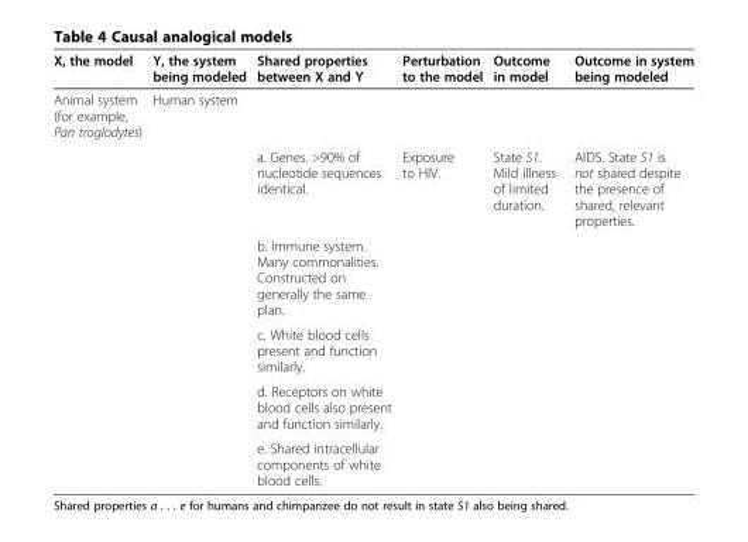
<table><thead><tr><td>X, the model</td><td>Y, the system being modeled</td><td>Shared properties between X and Y</td><td>Perturbation to the model</td><td>Outcome in model</td><td>Outcome in system being modeled</td></tr></thead><tbody><tr><td rowspan="6">Animal system (for example, Pan troglodytes)</td><td>Human system</td><td></td><td></td><td></td><td></td></tr><tr><td></td><td>a. Genes. &gt;90% of nucleotide sequences identical.</td><td>Exposure to HIV.</td><td>State S1. Mild illness of limited duration.</td><td>AIDS. State S1 is not shared despite the presence of shared, relevant properties.</td></tr><tr><td></td><td>b. Immune system. Many commonalities. Constructed on generally the same plan.</td><td></td><td></td><td></td></tr><tr><td></td><td>c. White blood cells present and function similarly.</td><td></td><td></td><td></td></tr><tr><td></td><td>d. Receptors on white blood cells also present and function similarly.</td><td></td><td></td><td></td></tr><tr><td></td><td>e. Shared intracellular components of white blood cells.</td><td></td><td></td><td></td></tr></tbody></table>